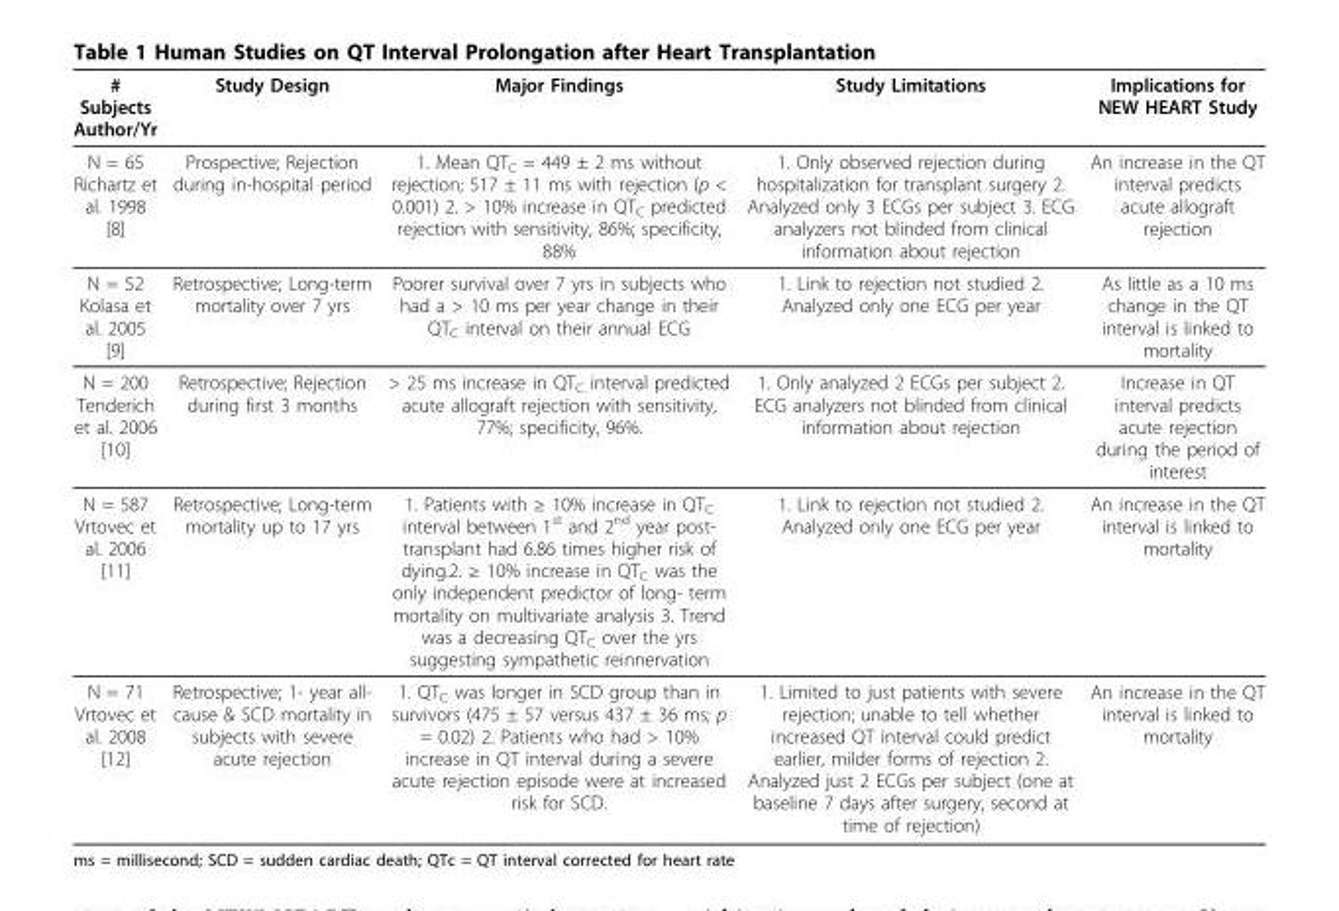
<table><thead><tr><td># Subjects Author/Yr</td><td>Study Design</td><td>Major Findings</td><td>Study Limitations</td><td>Implications for NEW HEART Study</td></tr></thead><tbody><tr><td>N = 65 Richartz et al. 1998 [8]</td><td>Prospective; Rejection during in-hospital period</td><td>1. Mean QT<sub>C</sub> = 449 ± 2 ms without rejection; 517 ± 11 ms with rejection (p &lt; 0.001) 2. &gt; 10% increase in QT<sub>C</sub> predicted rejection with sensitivity, 86%; specificity, 88%</td><td>1. Only observed rejection during hospitalization for transplant surgery 2. Analyzed only 3 ECGs per subject 3. ECG analyzers not blinded from clinical information about rejection</td><td>An increase in the QT interval predicts acute allograft rejection</td></tr><tr><td>N = 52 Kolasa et al. 2005 [9]</td><td>Retrospective; Long-term mortality over 7 yrs</td><td>Poorer survival over 7 yrs in subjects who had a &gt; 10 ms per year change in their QT<sub>C</sub> interval on their annual ECG</td><td>1. Link to rejection not studied 2. Analyzed only one ECG per year</td><td>As little as a 10 ms change in the QT interval is linked to mortality</td></tr><tr><td>N = 200 Tenderich et al. 2006 [10]</td><td>Retrospective; Rejection during first 3 months</td><td>&gt; 25 ms increase in QT<sub>C</sub> interval predicted acute allograft rejection with sensitivity, 77%; specificity, 96%.</td><td>1. Only analyzed 2 ECGs per subject 2. ECG analyzers not blinded from clinical information about rejection</td><td>Increase in QT interval predicts acute rejection during the period of interest</td></tr><tr><td>N = 587 Vrtovec et al. 2006 [11]</td><td>Retrospective; Long-term mortality up to 17 yrs</td><td>1. Patients with ≥ 10% increase in QT<sub>C</sub> interval between 1<sup>st</sup> and 2<sup>nd</sup> year post- transplant had 6.86 times higher risk of dying.2. ≥ 10% increase in QT<sub>C</sub> was the only independent predictor of long- term mortality on multivariate analysis 3. Trend was a decreasing QT<sub>C</sub> over the yrs suggesting sympathetic reinnervation</td><td>1. Link to rejection not studied 2. Analyzed only one ECG per year</td><td>An increase in the QT interval is linked to mortality</td></tr><tr><td>N = 71 Vrtovec et al. 2008 [12]</td><td>Retrospective; 1- year all- cause &amp; SCD mortality in subjects with severe acute rejection</td><td>1. QT<sub>C</sub> was longer in SCD group than in survivors (475 ± 57 versus 437 ± 36 ms; p = 0.02) 2. Patients who had &gt; 10% increase in QT interval during a severe acute rejection episode were at increased risk for SCD.</td><td>1. Limited to just patients with severe rejection; unable to tell whether increased QT interval could predict earlier, milder forms of rejection 2. Analyzed just 2 ECGs per subject (one at baseline 7 days after surgery, second at time of rejection)</td><td>An increase in the QT interval is linked to mortality</td></tr></tbody></table>